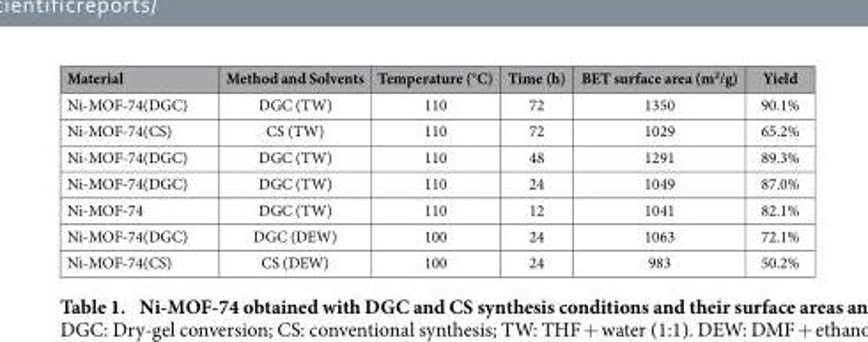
<table><thead><tr><td>Material</td><td>Method and Solvents</td><td>Temperature (°C)</td><td>Time (h)</td><td>BET surface area (m<sup>2</sup>/g)</td><td>Yield</td></tr></thead><tbody><tr><td>Ni-MOF-74(DGC)</td><td>DGC (TW)</td><td>110</td><td>72</td><td>1350</td><td>90.1%</td></tr><tr><td>Ni-MOF-74(CS)</td><td>CS (TW)</td><td>110</td><td>72</td><td>1029</td><td>65.2%</td></tr><tr><td>Ni-MOF-74(DGC)</td><td>DGC (TW)</td><td>110</td><td>48</td><td>1291</td><td>89.3%</td></tr><tr><td>Ni-MOF-74(DGC)</td><td>DGC (TW)</td><td>110</td><td>24</td><td>1049</td><td>87.0%</td></tr><tr><td>Ni-MOF-74</td><td>DGC (TW)</td><td>110</td><td>12</td><td>1041</td><td>82.1%</td></tr><tr><td>Ni-MOF-74(DGC)</td><td>DGC (DEW)</td><td>100</td><td>24</td><td>1063</td><td>72.1%</td></tr><tr><td>Ni-MOF-74(CS)</td><td>CS (DEW)</td><td>100</td><td>24</td><td>983</td><td>50.2%</td></tr></tbody></table>